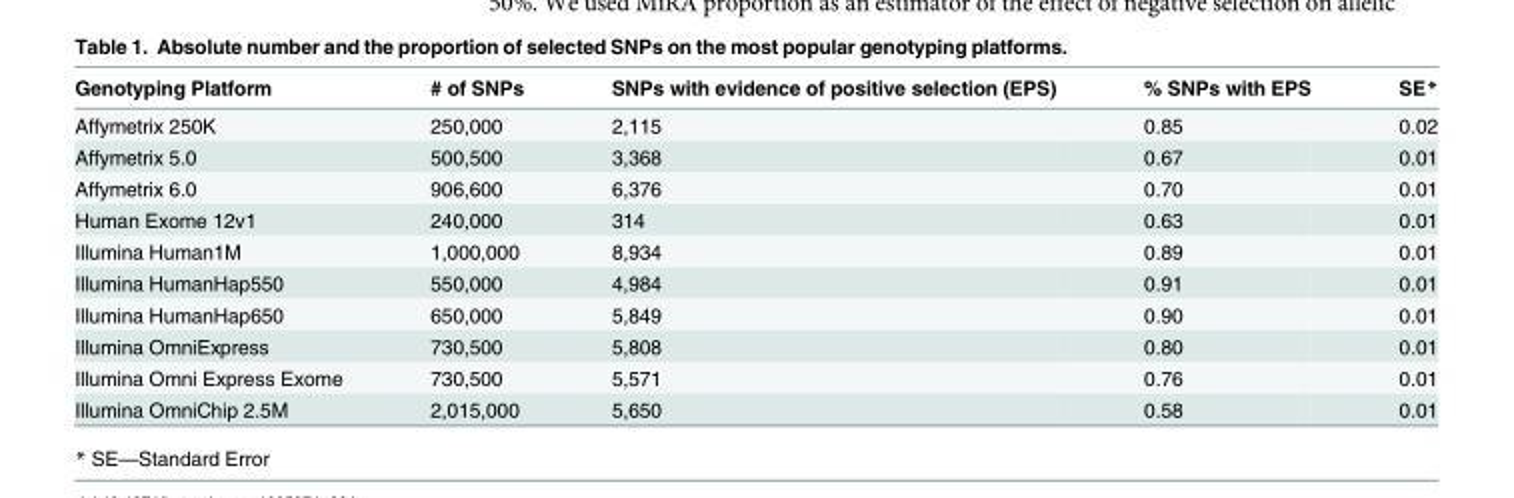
<table><thead><tr><td>Genotyping Platform</td><td># of SNPs</td><td>SNPs with evidence of positive selection (EPS)</td><td>% SNPs with EPS</td><td>SE*</td></tr></thead><tbody><tr><td>Affymetrix 250K</td><td>250,000</td><td>2,115</td><td>0.85</td><td>0.02</td></tr><tr><td>Affymetrix 5.0</td><td>500,500</td><td>3,368</td><td>0.67</td><td>0.01</td></tr><tr><td>Affymetrix 6.0</td><td>906,600</td><td>6,376</td><td>0.70</td><td>0.01</td></tr><tr><td>Human Exome 12v1</td><td>240,000</td><td>314</td><td>0.63</td><td>0.01</td></tr><tr><td>Illumina Human1M</td><td>1,000,000</td><td>8,934</td><td>0.89</td><td>0.01</td></tr><tr><td>Illumina HumanHap550</td><td>550,000</td><td>4,984</td><td>0.91</td><td>0.01</td></tr><tr><td>Illumina HumanHap650</td><td>650,000</td><td>5,849</td><td>0.90</td><td>0.01</td></tr><tr><td>Illumina OmniExpress</td><td>730,500</td><td>5,808</td><td>0.80</td><td>0.01</td></tr><tr><td>Illumina Omni Express Exome</td><td>730,500</td><td>5,571</td><td>0.76</td><td>0.01</td></tr><tr><td>Illumina OmniChip 2.5M</td><td>2,015,000</td><td>5,650</td><td>0.58</td><td>0.01</td></tr></tbody></table>